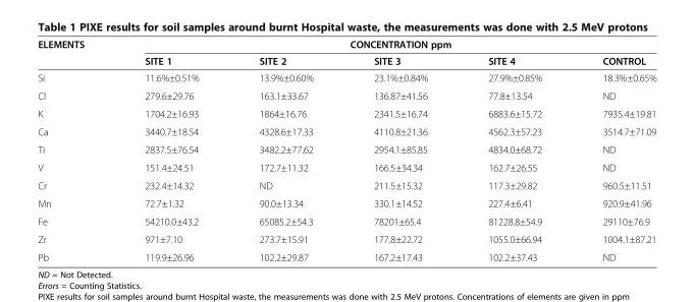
<table><thead><tr><td rowspan="2">ELEMENTS</td><td colspan="5">CONCENTRATION ppm</td></tr><tr><td>SITE 1</td><td>SITE 2</td><td>SITE 3</td><td>SITE 4</td><td>CONTROL</td></tr></thead><tbody><tr><td>Si</td><td>11.6%±0.51%</td><td>13.9%±0.60%</td><td>23.1%±0.84%</td><td>27.9%±0.85%</td><td>18.3%±0.65%</td></tr><tr><td>Cl</td><td>279.6±29.76</td><td>163.1±33.67</td><td>136.87±41.56</td><td>77.8±13.54</td><td>ND</td></tr><tr><td>K</td><td>1704.2±16.93</td><td>1864±16.76</td><td>2341.5±16.74</td><td>6883.6±15.72</td><td>7935.4±19.81</td></tr><tr><td>Ca</td><td>3440.7±18.54</td><td>4328.6±17.33</td><td>4110.8±21.36</td><td>4562.3±57.23</td><td>3514.7±71.09</td></tr><tr><td>Ti</td><td>2837.5±76.54</td><td>3482.2±77.62</td><td>2954.1±85.85</td><td>4834.0±68.72</td><td>ND</td></tr><tr><td>V</td><td>151.4±24.51</td><td>172.7±11.32</td><td>166.5±34.34</td><td>162.7±26.55</td><td>ND</td></tr><tr><td>Cr</td><td>232.4±14.32</td><td>ND</td><td>211.5±15.32</td><td>117.3±29.82</td><td>960.5±11.51</td></tr><tr><td>Mn</td><td>72.7±1.32</td><td>90.0±13.34</td><td>330.1±14.52</td><td>227.4±6.41</td><td>920.9±41.96</td></tr><tr><td>Fe</td><td>54210.0±43.2</td><td>65085.2±54.3</td><td>78201±65.4</td><td>81228.8±54.9</td><td>29110±76.9</td></tr><tr><td>Zr</td><td>971±7.10</td><td>273.7±15.91</td><td>177.8±22.72</td><td>1055.0±66.94</td><td>1004.1±87.21</td></tr><tr><td>Pb</td><td>119.9±26.96</td><td>102.2±29.87</td><td>167.2±17.43</td><td>102.2±37.43</td><td>ND</td></tr></tbody></table>